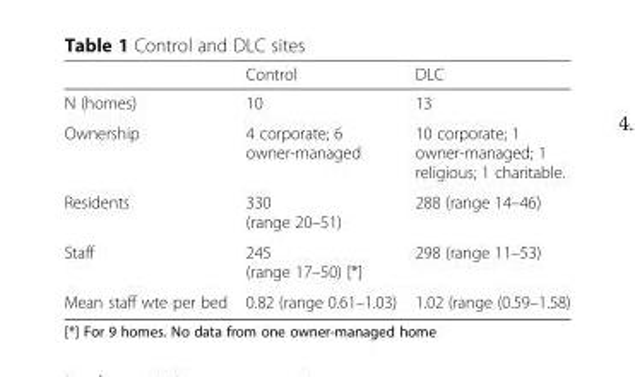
<table><thead><tr><td></td><td>Control</td><td>DLC</td></tr></thead><tbody><tr><td>N (homes)</td><td>10</td><td>13</td></tr><tr><td>Ownership</td><td>4 corporate; 6 owner-managed</td><td>10 corporate; 1 owner-managed; 1 religious; 1 charitable.</td></tr><tr><td>Residents</td><td>330 (range 20–51)</td><td>288 (range 14–46)</td></tr><tr><td>Staff</td><td>245 (range 17–50) [*]</td><td>298 (range 11–53)</td></tr><tr><td>Mean staff wte per bed</td><td>0.82 (range 0.61–1.03)</td><td>1.02 (range (0.59–1.58)</td></tr></tbody></table>